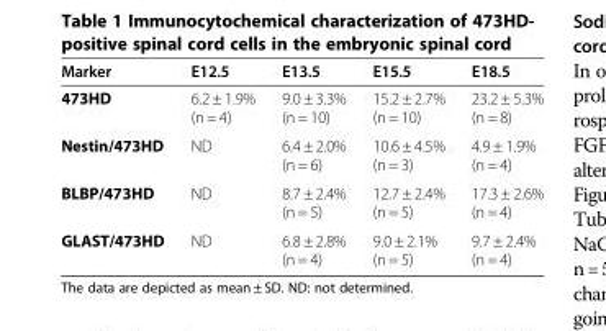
<table><thead><tr><td>Marker</td><td>E12.5</td><td>E13.5</td><td>E15.5</td><td>E18.5</td></tr></thead><tbody><tr><td>473HD</td><td>6.2 ± 1.9% (n = 4)</td><td>9.0 ± 3.3% (n = 10)</td><td>15.2 ± 2.7% (n = 10)</td><td>23.2 ± 5.3% (n = 8)</td></tr><tr><td>Nestin/473HD</td><td>ND</td><td>6.4 ± 2.0% (n = 6)</td><td>10.6 ± 4.5% (n = 3)</td><td>4.9 ± 1.9% (n = 4)</td></tr><tr><td>BLBP/473HD</td><td>ND</td><td>8.7 ± 2.4% (n = 5)</td><td>12.7 ± 2.4% (n = 5)</td><td>17.3 ± 2.6% (n = 4)</td></tr><tr><td>GLAST/473HD</td><td>ND</td><td>6.8 ± 2.8% (n = 4)</td><td>9.0 ± 2.1% (n = 5)</td><td>9.7 ± 2.4% (n = 4)</td></tr></tbody></table>